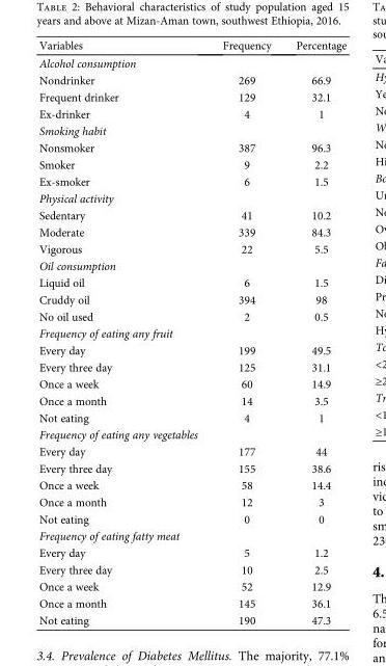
<table><thead><tr><td>Variables</td><td>Frequency</td><td>Percentage</td></tr></thead><tbody><tr><td colspan="3">Alcohol consumption</td></tr><tr><td>Nondrinker</td><td>269</td><td>66.9</td></tr><tr><td>Frequent drinker</td><td>129</td><td>32.1</td></tr><tr><td>Ex-drinker</td><td>4</td><td>1</td></tr><tr><td colspan="3">Smoking habit</td></tr><tr><td>Nonsmoker</td><td>387</td><td>96.3</td></tr><tr><td>Smoker</td><td>9</td><td>2.2</td></tr><tr><td>Ex-smoker</td><td>6</td><td>1.5</td></tr><tr><td colspan="3">Physical activity</td></tr><tr><td>Sedentary</td><td>41</td><td>10.2</td></tr><tr><td>Moderate</td><td>339</td><td>84.3</td></tr><tr><td>Vigorous</td><td>22</td><td>5.5</td></tr><tr><td colspan="3">Oil consumption</td></tr><tr><td>Liquid oil</td><td>6</td><td>1.5</td></tr><tr><td>Cruddy oil</td><td>394</td><td>98</td></tr><tr><td>No oil used</td><td>2</td><td>0.5</td></tr><tr><td colspan="3">Frequency of eating any fruit</td></tr><tr><td>Every day</td><td>199</td><td>49.5</td></tr><tr><td>Every three day</td><td>125</td><td>31.1</td></tr><tr><td>Once a week</td><td>60</td><td>14.9</td></tr><tr><td>Once a month</td><td>14</td><td>3.5</td></tr><tr><td>Not eating</td><td>4</td><td>1</td></tr><tr><td colspan="3">Frequency of eating any vegetables</td></tr><tr><td>Every day</td><td>177</td><td>44</td></tr><tr><td>Every three day</td><td>155</td><td>38.6</td></tr><tr><td>Once a week</td><td>58</td><td>14.4</td></tr><tr><td>Once a month</td><td>12</td><td>3</td></tr><tr><td>Not eating</td><td>0</td><td>0</td></tr><tr><td colspan="3">Frequency of eating fatty meat</td></tr><tr><td>Every day</td><td>5</td><td>1.2</td></tr><tr><td>Every three day</td><td>10</td><td>2.5</td></tr><tr><td>Once a week</td><td>52</td><td>12.9</td></tr><tr><td>Once a month</td><td>145</td><td>36.1</td></tr><tr><td>Not eating</td><td>190</td><td>47.3</td></tr></tbody></table>